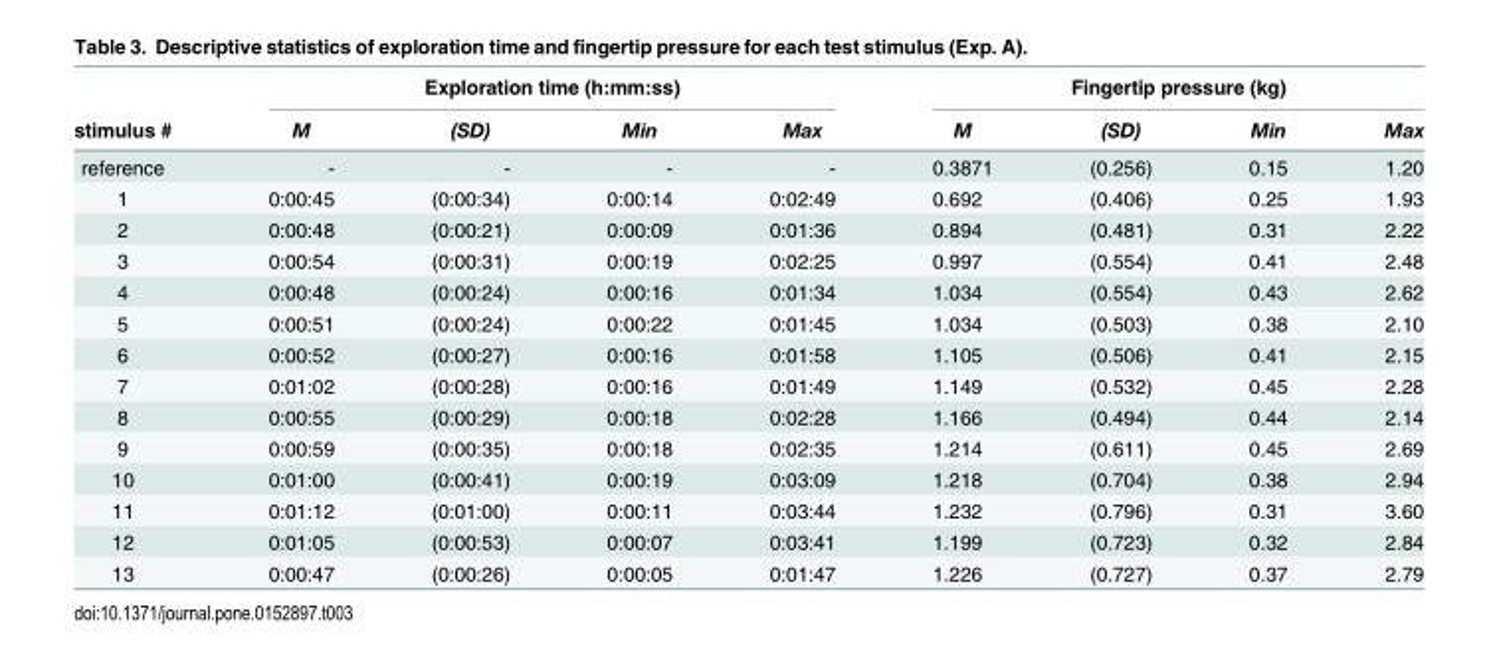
<table><thead><tr><td rowspan="2">stimulus #</td><td colspan="4">Exploration time (h:mm:ss)</td><td colspan="4">Fingertip pressure (kg)</td></tr><tr><td>M</td><td>(SD)</td><td>Min</td><td>Max</td><td>M</td><td>(SD)</td><td>Min</td><td>Max</td></tr></thead><tbody><tr><td>reference</td><td>-</td><td>-</td><td>-</td><td>-</td><td>0.3871</td><td>(0.256)</td><td>0.15</td><td>1.20</td></tr><tr><td>1</td><td>0:00:45</td><td>(0:00:34)</td><td>0:00:14</td><td>0:02:49</td><td>0.692</td><td>(0.406)</td><td>0.25</td><td>1.93</td></tr><tr><td>2</td><td>0:00:48</td><td>(0:00:21)</td><td>0:00:09</td><td>0:01:36</td><td>0.894</td><td>(0.481)</td><td>0.31</td><td>2.22</td></tr><tr><td>3</td><td>0:00:54</td><td>(0:00:31)</td><td>0:00:19</td><td>0:02:25</td><td>0.997</td><td>(0.554)</td><td>0.41</td><td>2.48</td></tr><tr><td>4</td><td>0:00:48</td><td>(0:00:24)</td><td>0:00:16</td><td>0:01:34</td><td>1.034</td><td>(0.554)</td><td>0.43</td><td>2.62</td></tr><tr><td>5</td><td>0:00:51</td><td>(0:00:24)</td><td>0:00:22</td><td>0:01:45</td><td>1.034</td><td>(0.503)</td><td>0.38</td><td>2.10</td></tr><tr><td>6</td><td>0:00:52</td><td>(0:00:27)</td><td>0:00:16</td><td>0:01:58</td><td>1.105</td><td>(0.506)</td><td>0.41</td><td>2.15</td></tr><tr><td>7</td><td>0:01:02</td><td>(0:00:28)</td><td>0:00:16</td><td>0:01:49</td><td>1.149</td><td>(0.532)</td><td>0.45</td><td>2.28</td></tr><tr><td>8</td><td>0:00:55</td><td>(0:00:29)</td><td>0:00:18</td><td>0:02:28</td><td>1.166</td><td>(0.494)</td><td>0.44</td><td>2.14</td></tr><tr><td>9</td><td>0:00:59</td><td>(0:00:35)</td><td>0:00:18</td><td>0:02:35</td><td>1.214</td><td>(0.611)</td><td>0.45</td><td>2.69</td></tr><tr><td>10</td><td>0:01:00</td><td>(0:00:41)</td><td>0:00:19</td><td>0:03:09</td><td>1.218</td><td>(0.704)</td><td>0.38</td><td>2.94</td></tr><tr><td>11</td><td>0:01:12</td><td>(0:01:00)</td><td>0:00:11</td><td>0:03:44</td><td>1.232</td><td>(0.796)</td><td>0.31</td><td>3.60</td></tr><tr><td>12</td><td>0:01:05</td><td>(0:00:53)</td><td>0:00:07</td><td>0:03:41</td><td>1.199</td><td>(0.723)</td><td>0.32</td><td>2.84</td></tr><tr><td>13</td><td>0:00:47</td><td>(0:00:26)</td><td>0:00:05</td><td>0:01:47</td><td>1.226</td><td>(0.727)</td><td>0.37</td><td>2.79</td></tr></tbody></table>